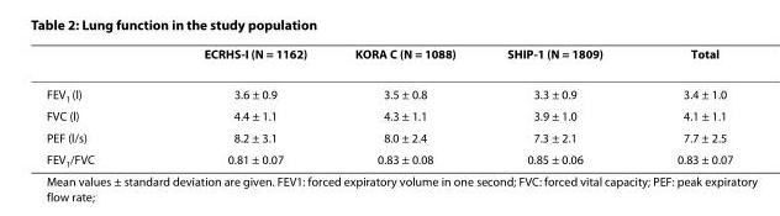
<table><thead><tr><td></td><td>ECRHS-I (N = 1162)</td><td>KORA C (N = 1088)</td><td>SHIP-1 (N = 1809)</td><td>Total</td></tr></thead><tbody><tr><td>FEV<sub>1</sub> (l)</td><td>3.6 ± 0.9</td><td>3.5 ± 0.8</td><td>3.3 ± 0.9</td><td>3.4 ± 1.0</td></tr><tr><td>FVC (l)</td><td>4.4 ± 1.1</td><td>4.3 ± 1.1</td><td>3.9 ± 1.0</td><td>4.1 ± 1.1</td></tr><tr><td>PEF (l/s)</td><td>8.2 ± 3.1</td><td>8.0 ± 2.4</td><td>7.3 ± 2.1</td><td>7.7 ± 2.5</td></tr><tr><td>FEV<sub>1</sub>/FVC</td><td>0.81 ± 0.07</td><td>0.83 ± 0.08</td><td>0.85 ± 0.06</td><td>0.83 ± 0.07</td></tr></tbody></table>